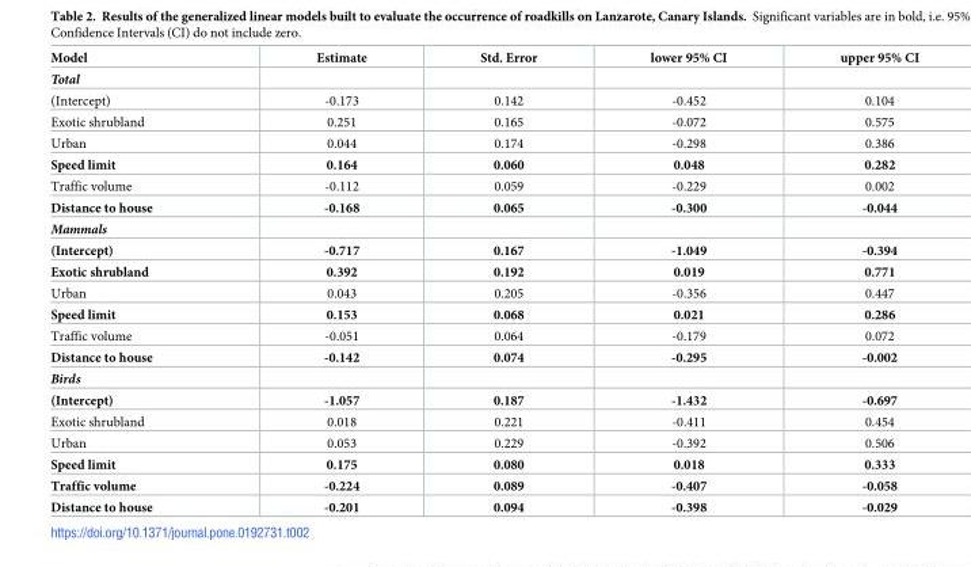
<table><thead><tr><td>Model</td><td>Estimate</td><td>Std. Error</td><td>lower 95% CI</td><td>upper 95% CI</td></tr></thead><tbody><tr><td colspan="5">Total</td></tr><tr><td>(Intercept)</td><td>-0.173</td><td>0.142</td><td>-0.452</td><td>0.104</td></tr><tr><td>Exotic shrubland</td><td>0.251</td><td>0.165</td><td>-0.072</td><td>0.575</td></tr><tr><td>Urban</td><td>0.044</td><td>0.174</td><td>-0.298</td><td>0.386</td></tr><tr><td>Speed limit</td><td>0.164</td><td>0.060</td><td>0.048</td><td>0.282</td></tr><tr><td>Traffic volume</td><td>-0.112</td><td>0.059</td><td>-0.229</td><td>0.002</td></tr><tr><td>Distance to house</td><td>-0.168</td><td>0.065</td><td>-0.300</td><td>-0.044</td></tr><tr><td colspan="5">Mammals</td></tr><tr><td>(Intercept)</td><td>-0.717</td><td>0.167</td><td>-1.049</td><td>-0.394</td></tr><tr><td>Exotic shrubland</td><td>0.392</td><td>0.192</td><td>0.019</td><td>0.771</td></tr><tr><td>Urban</td><td>0.043</td><td>0.205</td><td>-0.356</td><td>0.447</td></tr><tr><td>Speed limit</td><td>0.153</td><td>0.068</td><td>0.021</td><td>0.286</td></tr><tr><td>Traffic volume</td><td>-0.051</td><td>0.064</td><td>-0.179</td><td>0.072</td></tr><tr><td>Distance to house</td><td>-0.142</td><td>0.074</td><td>-0.295</td><td>-0.002</td></tr><tr><td colspan="5">Birds</td></tr><tr><td>(Intercept)</td><td>-1.057</td><td>0.187</td><td>-1.432</td><td>-0.697</td></tr><tr><td>Exotic shrubland</td><td>0.018</td><td>0.221</td><td>-0.411</td><td>0.454</td></tr><tr><td>Urban</td><td>0.053</td><td>0.229</td><td>-0.392</td><td>0.506</td></tr><tr><td>Speed limit</td><td>0.175</td><td>0.080</td><td>0.018</td><td>0.333</td></tr><tr><td>Traffic volume</td><td>-0.224</td><td>0.089</td><td>-0.407</td><td>-0.058</td></tr><tr><td>Distance to house</td><td>-0.201</td><td>0.094</td><td>-0.398</td><td>-0.029</td></tr></tbody></table>